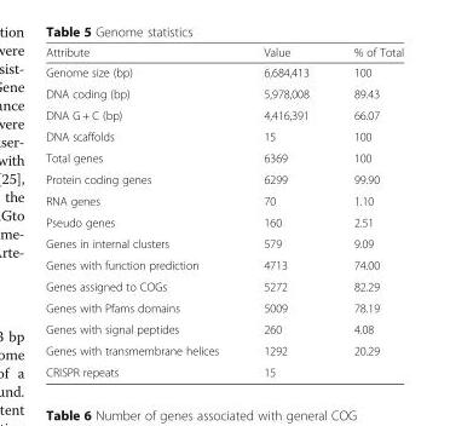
<table><thead><tr><td>Attribute</td><td>Value</td><td>% of Total</td></tr></thead><tbody><tr><td>Genome size (bp)</td><td>6,684,413</td><td>100</td></tr><tr><td>DNA coding (bp)</td><td>5,978,008</td><td>89.43</td></tr><tr><td>DNA G + C (bp)</td><td>4,416,391</td><td>66.07</td></tr><tr><td>DNA scaffolds</td><td>15</td><td>100</td></tr><tr><td>Total genes</td><td>6369</td><td>100</td></tr><tr><td>Protein coding genes</td><td>6299</td><td>99.90</td></tr><tr><td>RNA genes</td><td>70</td><td>1.10</td></tr><tr><td>Pseudo genes</td><td>160</td><td>2.51</td></tr><tr><td>Genes in internal clusters</td><td>579</td><td>9.09</td></tr><tr><td>Genes with function prediction</td><td>4713</td><td>74.00</td></tr><tr><td>Genes assigned to COGs</td><td>5272</td><td>82.29</td></tr><tr><td>Genes with Pfams domains</td><td>5009</td><td>78.19</td></tr><tr><td>Genes with signal peptides</td><td>260</td><td>4.08</td></tr><tr><td>Genes with transmembrane helices</td><td>1292</td><td>20.29</td></tr><tr><td>CRISPR repeats</td><td>15</td><td></td></tr></tbody></table>